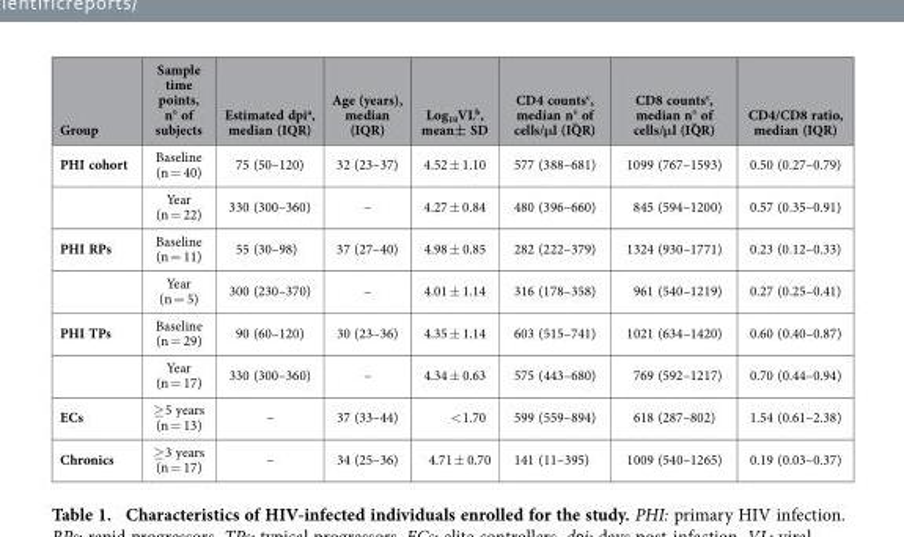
<table><thead><tr><td>Group</td><td>Sample time points, n° of subjects</td><td>Estimated dpi<sup>a</sup>, median (IQR)</td><td>Age (years), median (IQR)</td><td>Log<sub>10</sub>VL<sup>b</sup>, mean± SD</td><td>CD4 counts<sup>c</sup>, median n° of cells/μl (IQR)</td><td>CD8 counts<sup>c</sup>, median n° of cells/μl (IQR)</td><td>CD4/CD8 ratio, median (IQR)</td></tr></thead><tbody><tr><td rowspan="2">PHI cohort</td><td>Baseline (n = 40)</td><td>75 (50–120)</td><td>32 (23–37)</td><td>4.52 ± 1.10</td><td>577 (388–681)</td><td>1099 (767–1593)</td><td>0.50 (0.27–0.79)</td></tr><tr><td>Year (n = 22)</td><td>330 (300–360)</td><td>–</td><td>4.27 ± 0.84</td><td>480 (396–660)</td><td>845 (594–1200)</td><td>0.57 (0.35–0.91)</td></tr><tr><td rowspan="2">PHI RPs</td><td>Baseline (n = 11)</td><td>55 (30–98)</td><td>37 (27–40)</td><td>4.98 ± 0.85</td><td>282 (222–379)</td><td>1324 (930–1771)</td><td>0.23 (0.12–0.33)</td></tr><tr><td>Year (n = 5)</td><td>300 (230–370)</td><td>–</td><td>4.01 ± 1.14</td><td>316 (178–358)</td><td>961 (540–1219)</td><td>0.27 (0.25–0.41)</td></tr><tr><td rowspan="2">PHI TPs</td><td>Baseline (n = 29)</td><td>90 (60–120)</td><td>30 (23–36)</td><td>4.35 ± 1.14</td><td>603 (515–741)</td><td>1021 (634–1420)</td><td>0.60 (0.40–0.87)</td></tr><tr><td>Year (n = 17)</td><td>330 (300–360)</td><td>–</td><td>4.34 ± 0.63</td><td>575 (443–680)</td><td>769 (592–1217)</td><td>0.70 (0.44–0.94)</td></tr><tr><td>ECs</td><td>≥ 5 years (n = 13)</td><td>–</td><td>37 (33–44)</td><td>&lt; 1.70</td><td>599 (559–894)</td><td>618 (287–802)</td><td>1.54 (0.61–2.38)</td></tr><tr><td>Chronics</td><td>≥ 3 years (n = 17)</td><td>–</td><td>34 (25–36)</td><td>4.71 ± 0.70</td><td>141 (11–395)</td><td>1009 (540–1265)</td><td>0.19 (0.03–0.37)</td></tr></tbody></table>